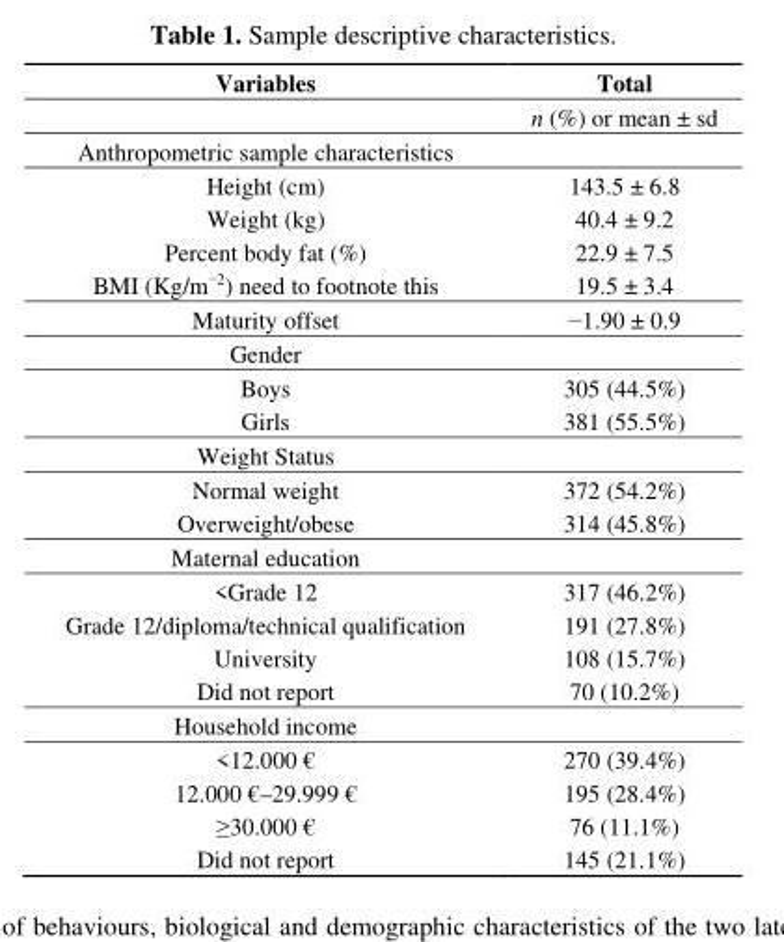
<table><thead><tr><td>Variables</td><td>Total</td></tr></thead><tbody><tr><td></td><td>n (%) or mean ± sd</td></tr><tr><td colspan="2">Anthropometric sample characteristics</td></tr><tr><td>Height (cm)</td><td>143.5 ± 6.8</td></tr><tr><td>Weight (kg)</td><td>40.4 ± 9.2</td></tr><tr><td>Percent body fat (%)</td><td>22.9 ± 7.5</td></tr><tr><td>BMI (Kg/m<sup>−2</sup>) need to footnote this</td><td>19.5 ± 3.4</td></tr><tr><td>Maturity offset</td><td>−1.90 ± 0.9</td></tr><tr><td colspan="2">Gender</td></tr><tr><td>Boys</td><td>305 (44.5%)</td></tr><tr><td>Girls</td><td>381 (55.5%)</td></tr><tr><td colspan="2">Weight Status</td></tr><tr><td>Normal weight</td><td>372 (54.2%)</td></tr><tr><td>Overweight/obese</td><td>314 (45.8%)</td></tr><tr><td colspan="2">Maternal education</td></tr><tr><td>&lt;Grade 12</td><td>317 (46.2%)</td></tr><tr><td>Grade 12/diploma/technical qualification</td><td>191 (27.8%)</td></tr><tr><td>University</td><td>108 (15.7%)</td></tr><tr><td>Did not report</td><td>70 (10.2%)</td></tr><tr><td colspan="2">Household income</td></tr><tr><td>&lt;12.000 €</td><td>270 (39.4%)</td></tr><tr><td>12.000 €–29.999 €</td><td>195 (28.4%)</td></tr><tr><td>≥30.000 €</td><td>76 (11.1%)</td></tr><tr><td>Did not report</td><td>145 (21.1%)</td></tr></tbody></table>